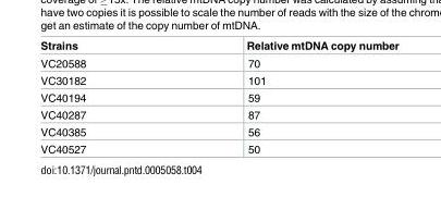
<table><thead><tr><td>Strains</td><td>Relative mtDNA copy number</td></tr></thead><tbody><tr><td>VC20588</td><td>70</td></tr><tr><td>VC30182</td><td>101</td></tr><tr><td>VC40194</td><td>59</td></tr><tr><td>VC40287</td><td>87</td></tr><tr><td>VC40385</td><td>56</td></tr><tr><td>VC40527</td><td>50</td></tr></tbody></table>